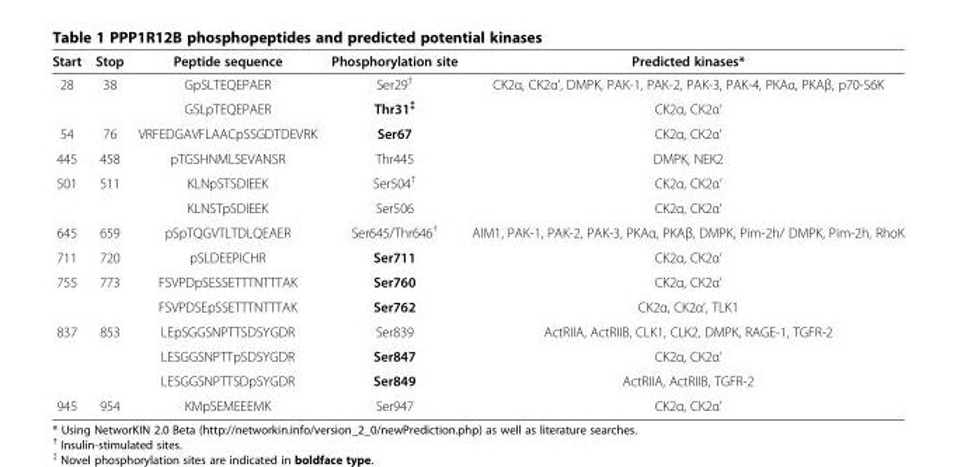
<table><thead><tr><td>Start</td><td>Stop</td><td>Peptide sequence</td><td>Phosphorylation site</td><td>Predicted kinases*</td></tr></thead><tbody><tr><td rowspan="2">28</td><td>38</td><td>GpSLTEQEPAER</td><td>Ser29<sup>†</sup></td><td>CK2α, CK2α’, DMPK, PAK-1, PAK-2, PAK-3, PAK-4, PKAα, PKAβ, p70-S6K</td></tr><tr><td></td><td>GSLpTEQEPAER</td><td>Thr31{{</td><td>CK2α, CK2α’</td></tr><tr><td>54</td><td>76</td><td>VRFEDGAVFLAACpSSGDTDEVRK</td><td>Ser67</td><td>CK2α, CK2α’</td></tr><tr><td>445</td><td>458</td><td>pTGSHNMLSEVANSR</td><td>Thr445</td><td>DMPK, NEK2</td></tr><tr><td rowspan="2">501</td><td>511</td><td>KLNpSTSDIEEK</td><td>Ser504<sup>†</sup></td><td>CK2α, CK2α’</td></tr><tr><td></td><td>KLNSTpSDIEEK</td><td>Ser506</td><td>CK2α, CK2α’</td></tr><tr><td>645</td><td>659</td><td>pSpTQGVTLTDLQEAER</td><td>Ser645/Thr646<sup>†</sup></td><td>AIM1, PAK-1, PAK-2, PAK-3, PKAα, PKAβ, DMPK, Pim-2h/ DMPK, Pim-2h, RhoK</td></tr><tr><td>711</td><td>720</td><td>pSLDEEPICHR</td><td>Ser711</td><td>CK2α, CK2α’</td></tr><tr><td rowspan="2">755</td><td>773</td><td>FSVPDpSESSETTTNTTTAK</td><td>Ser760</td><td>CK2α, CK2α’</td></tr><tr><td></td><td>FSVPDSEpSSETTTNTTTAK</td><td>Ser762</td><td>CK2α, CK2α’, TLK1</td></tr><tr><td rowspan="3">837</td><td>853</td><td>LEpSGGSNPTTSDSYGDR</td><td>Ser839</td><td>ActRIIA, ActRIIB, CLK1, CLK2, DMPK, RAGE-1, TGFR-2</td></tr><tr><td></td><td>LESGGSNPTTpSDSYGDR</td><td>Ser847</td><td>CK2α, CK2α’</td></tr><tr><td></td><td>LESGGSNPTTSDpSYGDR</td><td>Ser849</td><td>ActRIIA, ActRIIB, TGFR-2</td></tr><tr><td>945</td><td>954</td><td>KMpSEMEEEMK</td><td>Ser947</td><td>CK2α, CK2α’</td></tr></tbody></table>